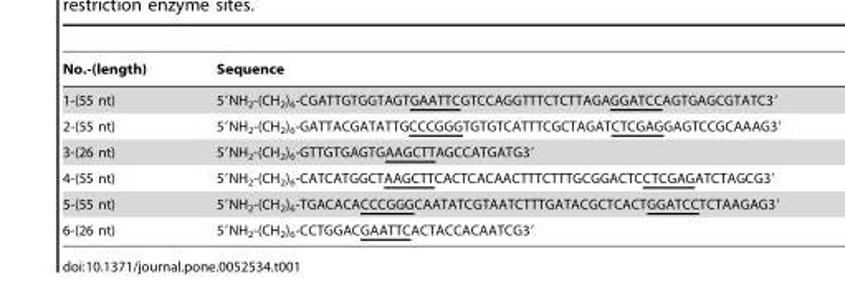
<table><thead><tr><td>No.-(length)</td><td>Sequence</td></tr></thead><tbody><tr><td>1-(55 nt)</td><td>5′NH<sub>2</sub>-(CH<sub>2</sub>)<sub>6</sub>-CGATTGTGGTAGTGAATTCGTCCAGGTTTCTCTTAGAGGATCCAGTGAGCGTATC3′</td></tr><tr><td>2-(55 nt)</td><td>5′NH<sub>2</sub>-(CH<sub>2</sub>)<sub>6</sub>-GATTACGATATTGCCCGGGTGTGTCATTTCGCTAGATCTCGAGGAGTCCGCAAAG3′</td></tr><tr><td>3-(26 nt)</td><td>5′NH<sub>2</sub>-(CH<sub>2</sub>)<sub>6</sub>-GTTGTGAGTGAAGCTTAGCCATGATG3′</td></tr><tr><td>4-(55 nt)</td><td>5′NH<sub>2</sub>-(CH<sub>2</sub>)<sub>6</sub>-CATCATGGCTAAGCTTCACTCACAACTTTCTTTGCGGACTCCTCGAGATCTAGCG3′</td></tr><tr><td>5-(55 nt)</td><td>5′NH<sub>2</sub>-(CH<sub>2</sub>)<sub>6</sub>-TGACACACCCGGGCAATATCGTAATCTTTGATACGCTCACTGGATCCTCTAAGAG3′</td></tr><tr><td>6-(26 nt)</td><td>5′NH<sub>2</sub>-(CH<sub>2</sub>)<sub>6</sub>-CCTGGACGAATTCACTACCACAATCG3′</td></tr></tbody></table>